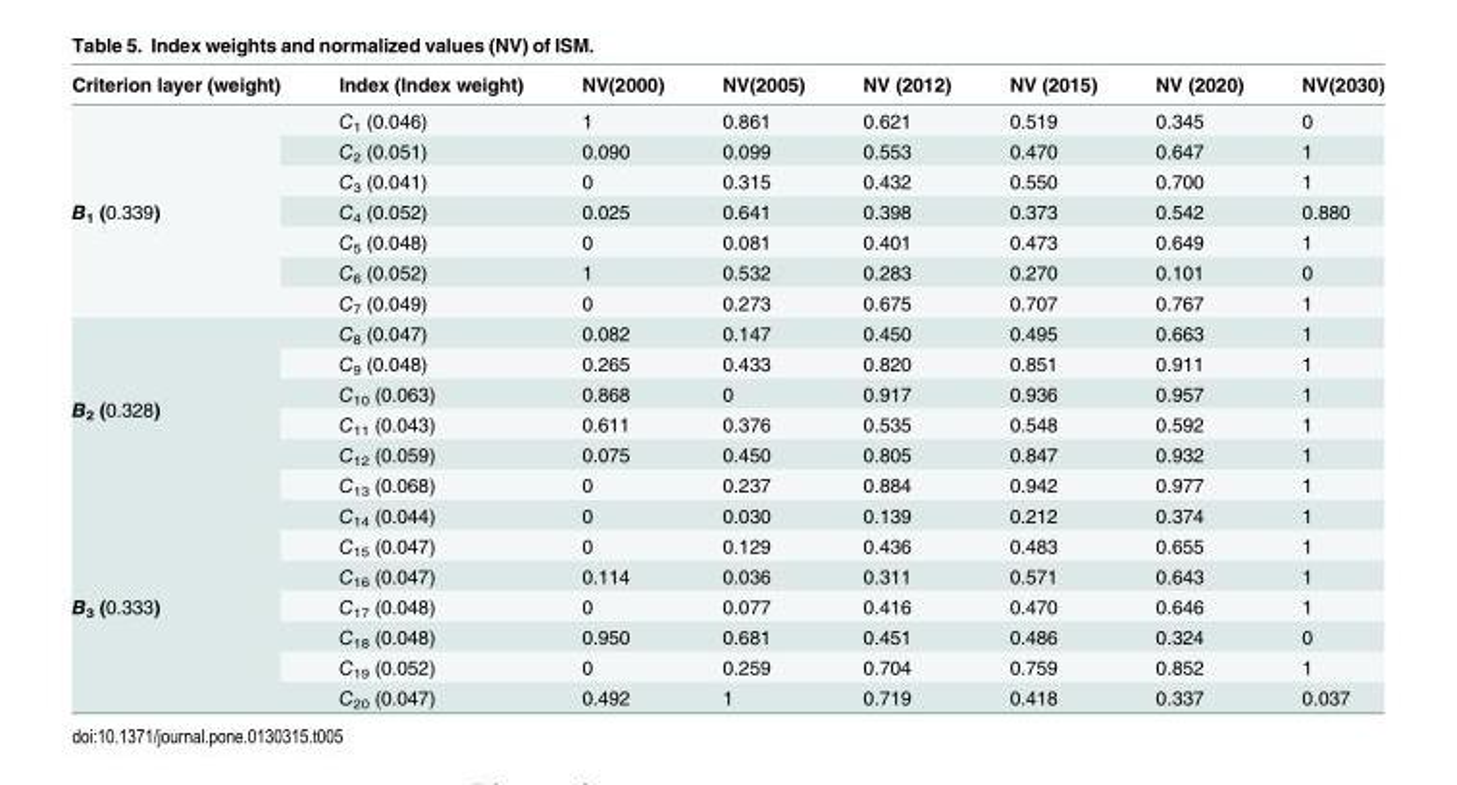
<table><thead><tr><td>Criterion layer (weight)</td><td>Index (Index weight)</td><td>NV(2000)</td><td>NV(2005)</td><td>NV (2012)</td><td>NV (2015)</td><td>NV (2020)</td><td>NV(2030)</td></tr></thead><tbody><tr><td rowspan="7">B<sub>1</sub> (0.339)</td><td>C<sub>1</sub> (0.046)</td><td>1</td><td>0.861</td><td>0.621</td><td>0.519</td><td>0.345</td><td>0</td></tr><tr><td>C<sub>2</sub> (0.051)</td><td>0.090</td><td>0.099</td><td>0.553</td><td>0.470</td><td>0.647</td><td>1</td></tr><tr><td>C<sub>3</sub> (0.041)</td><td>0</td><td>0.315</td><td>0.432</td><td>0.550</td><td>0.700</td><td>1</td></tr><tr><td>C<sub>4</sub> (0.052)</td><td>0.025</td><td>0.641</td><td>0.398</td><td>0.373</td><td>0.542</td><td>0.880</td></tr><tr><td>C<sub>5</sub> (0.048)</td><td>0</td><td>0.081</td><td>0.401</td><td>0.473</td><td>0.649</td><td>1</td></tr><tr><td>C<sub>6</sub> (0.052)</td><td>1</td><td>0.532</td><td>0.283</td><td>0.270</td><td>0.101</td><td>0</td></tr><tr><td>C<sub>7</sub> (0.049)</td><td>0</td><td>0.273</td><td>0.675</td><td>0.707</td><td>0.767</td><td>1</td></tr><tr><td rowspan="6">B<sub>2</sub> (0.328)</td><td>C<sub>8</sub> (0.047)</td><td>0.082</td><td>0.147</td><td>0.450</td><td>0.495</td><td>0.663</td><td>1</td></tr><tr><td>C<sub>9</sub> (0.048)</td><td>0.265</td><td>0.433</td><td>0.820</td><td>0.851</td><td>0.911</td><td>1</td></tr><tr><td>C<sub>10</sub> (0.063)</td><td>0.868</td><td>0</td><td>0.917</td><td>0.936</td><td>0.957</td><td>1</td></tr><tr><td>C<sub>11</sub> (0.043)</td><td>0.611</td><td>0.376</td><td>0.535</td><td>0.548</td><td>0.592</td><td>1</td></tr><tr><td>C<sub>12</sub> (0.059)</td><td>0.075</td><td>0.450</td><td>0.805</td><td>0.847</td><td>0.932</td><td>1</td></tr><tr><td>C<sub>13</sub> (0.068)</td><td>0</td><td>0.237</td><td>0.884</td><td>0.942</td><td>0.977</td><td>1</td></tr><tr><td rowspan="7">B<sub>3</sub> (0.333)</td><td>C<sub>14</sub> (0.044)</td><td>0</td><td>0.030</td><td>0.139</td><td>0.212</td><td>0.374</td><td>1</td></tr><tr><td>C<sub>15</sub> (0.047)</td><td>0</td><td>0.129</td><td>0.436</td><td>0.483</td><td>0.655</td><td>1</td></tr><tr><td>C<sub>16</sub> (0.047)</td><td>0.114</td><td>0.036</td><td>0.311</td><td>0.571</td><td>0.643</td><td>1</td></tr><tr><td>C<sub>17</sub> (0.048)</td><td>0</td><td>0.077</td><td>0.416</td><td>0.470</td><td>0.646</td><td>1</td></tr><tr><td>C<sub>18</sub> (0.048)</td><td>0.950</td><td>0.681</td><td>0.451</td><td>0.486</td><td>0.324</td><td>0</td></tr><tr><td>C<sub>19</sub> (0.052)</td><td>0</td><td>0.259</td><td>0.704</td><td>0.759</td><td>0.852</td><td>1</td></tr><tr><td>C<sub>20</sub> (0.047)</td><td>0.492</td><td>1</td><td>0.719</td><td>0.418</td><td>0.337</td><td>0.037</td></tr></tbody></table>